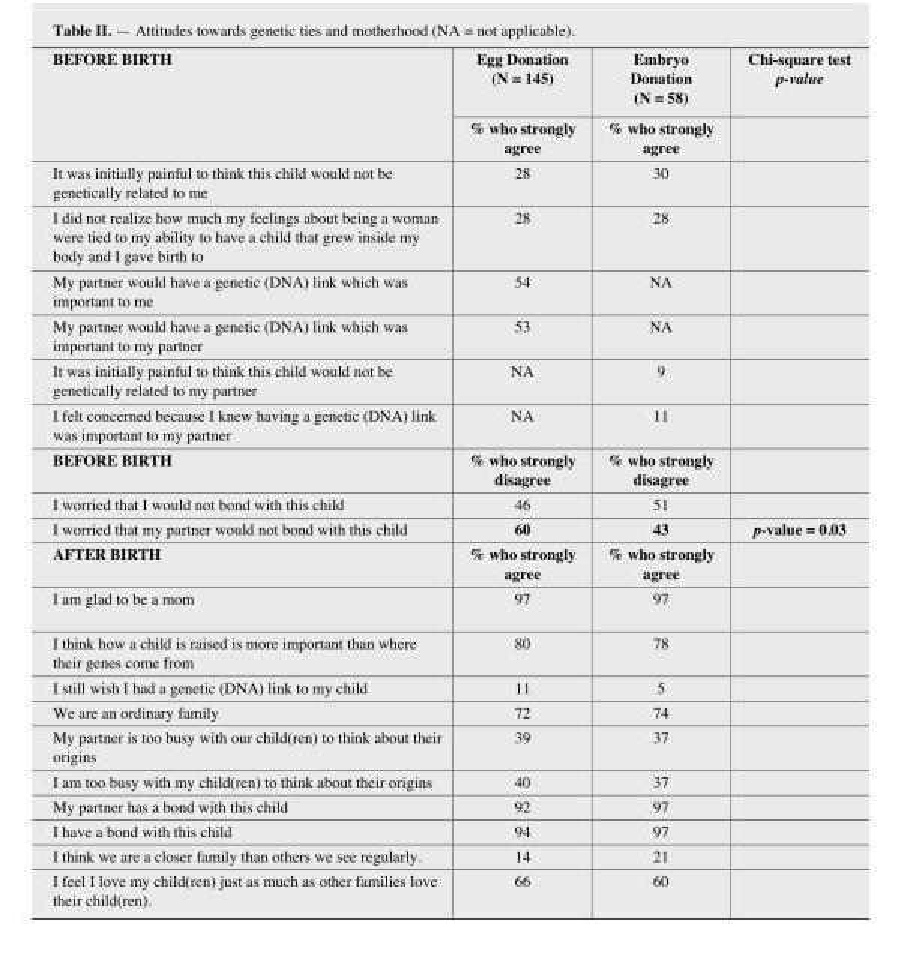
<table><thead><tr><td rowspan="2">BEFORE BIRTH</td><td rowspan="2">Egg Donation (N = 145) % who strongly agree</td><td rowspan="2">Embryo Donation (N = 58) % who strongly agree</td><td rowspan="2">Chi-square test p-value</td></tr><tr></tr></thead><tbody><tr><td>It was initially painful to think this child would not be genetically related to me</td><td>28</td><td>30</td><td></td></tr><tr><td>I did not realize how much my feelings about being a woman were tied to my ability to have a child that grew inside my body and I gave birth to</td><td>28</td><td>28</td><td></td></tr><tr><td>My partner would have a genetic (DNA) link which was important to me</td><td>54</td><td>NA</td><td></td></tr><tr><td>My partner would have a genetic (DNA) link which was important to my partner</td><td>53</td><td>NA</td><td></td></tr><tr><td>It was initially painful to think this child would not be genetically related to my partner</td><td>NA</td><td>9</td><td></td></tr><tr><td>I felt concerned because I knew having a genetic (DNA) link was important to my partner</td><td>NA</td><td>11</td><td></td></tr><tr><td>BEFORE BIRTH</td><td>% who strongly disagree</td><td>% who strongly disagree</td><td></td></tr><tr><td>I worried that I would not bond with this child I worried that my partner would not bond with this child</td><td>46 60</td><td>51 43</td><td>p-value = 0.03</td></tr><tr><td>AFTER BIRTH</td><td>% who strongly agree</td><td>% who strongly agree</td><td></td></tr><tr><td>I am glad to be a mom</td><td>97</td><td>97</td><td></td></tr><tr><td>I think how a child is raised is more important than where their genes come from</td><td>80</td><td>78</td><td></td></tr><tr><td>I still wish I had a genetic (DNA) link to my child</td><td>11</td><td>5</td><td></td></tr><tr><td>We are an ordinary family</td><td>72</td><td>74</td><td></td></tr><tr><td>My partner is too busy with our child(ren) to think about their origins</td><td>39</td><td>37</td><td></td></tr><tr><td>I am too busy with my child(ren) to think about their origins</td><td>40</td><td>37</td><td></td></tr><tr><td>My partner has a bond with this child</td><td>92</td><td>97</td><td></td></tr><tr><td>I have a bond with this child</td><td>94</td><td>97</td><td></td></tr><tr><td>I think we are a closer family than others we see regularly.</td><td>14</td><td>21</td><td></td></tr><tr><td>I feel I love my child(ren) just as much as other families love their child(ren).</td><td>66</td><td>60</td><td></td></tr></tbody></table>